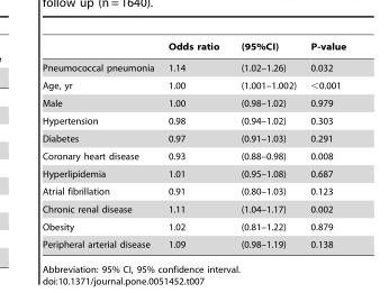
<table><thead><tr><td></td><td>Odds ratio</td><td>(95%CI)</td><td>P-value</td></tr></thead><tbody><tr><td>Pneumococcal pneumonia</td><td>1.14</td><td>(1.02–1.26)</td><td>0.032</td></tr><tr><td>Age, yr</td><td>1.00</td><td>(1.001–1.002)</td><td>&lt;0.001</td></tr><tr><td>Male</td><td>1.00</td><td>(0.98–1.02)</td><td>0.979</td></tr><tr><td>Hypertension</td><td>0.98</td><td>(0.94–1.02)</td><td>0.303</td></tr><tr><td>Diabetes</td><td>0.97</td><td>(0.91–1.03)</td><td>0.291</td></tr><tr><td>Coronary heart disease</td><td>0.93</td><td>(0.88–0.98)</td><td>0.008</td></tr><tr><td>Hyperlipidemia</td><td>1.01</td><td>(0.95–1.08)</td><td>0.687</td></tr><tr><td>Atrial fibrillation</td><td>0.91</td><td>(0.80–1.03)</td><td>0.123</td></tr><tr><td>Chronic renal disease</td><td>1.11</td><td>(1.04–1.17)</td><td>0.002</td></tr><tr><td>Obesity</td><td>1.02</td><td>(0.81–1.22)</td><td>0.879</td></tr><tr><td>Peripheral arterial disease</td><td>1.09</td><td>(0.98–1.19)</td><td>0.138</td></tr></tbody></table>